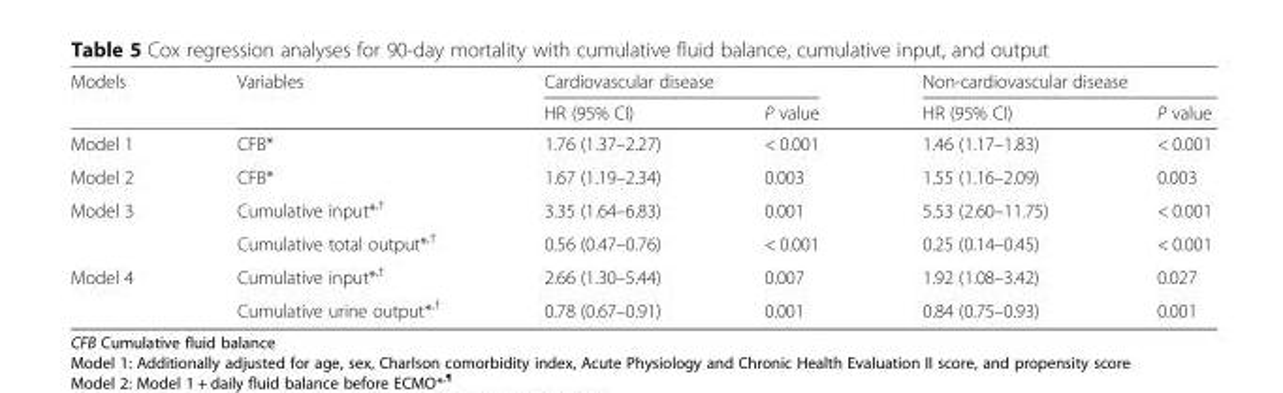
<table><thead><tr><td rowspan="2">Models</td><td rowspan="2">Variables</td><td colspan="2">Cardiovascular disease</td><td colspan="2">Non-cardiovascular disease</td></tr><tr><td>HR (95% CI)</td><td>P value</td><td>HR (95% CI)</td><td>P value</td></tr></thead><tbody><tr><td>Model 1</td><td>CFB*</td><td>1.76 (1.37–2.27)</td><td>&lt; 0.001</td><td>1.46 (1.17–1.83)</td><td>&lt; 0.001</td></tr><tr><td>Model 2</td><td>CFB*</td><td>1.67 (1.19–2.34)</td><td>0.003</td><td>1.55 (1.16–2.09)</td><td>0.003</td></tr><tr><td rowspan="2">Model 3</td><td>Cumulative input*<sup>,†</sup></td><td>3.35 (1.64–6.83)</td><td>0.001</td><td>5.53 (2.60–11.75)</td><td>&lt; 0.001</td></tr><tr><td>Cumulative total output*<sup>,†</sup></td><td>0.56 (0.47–0.76)</td><td>&lt; 0.001</td><td>0.25 (0.14–0.45)</td><td>&lt; 0.001</td></tr><tr><td rowspan="2">Model 4</td><td>Cumulative input*<sup>,†</sup></td><td>2.66 (1.30–5.44)</td><td>0.007</td><td>1.92 (1.08–3.42)</td><td>0.027</td></tr><tr><td>Cumulative urine output*<sup>,†</sup></td><td>0.78 (0.67–0.91)</td><td>0.001</td><td>0.84 (0.75–0.93)</td><td>0.001</td></tr></tbody></table>